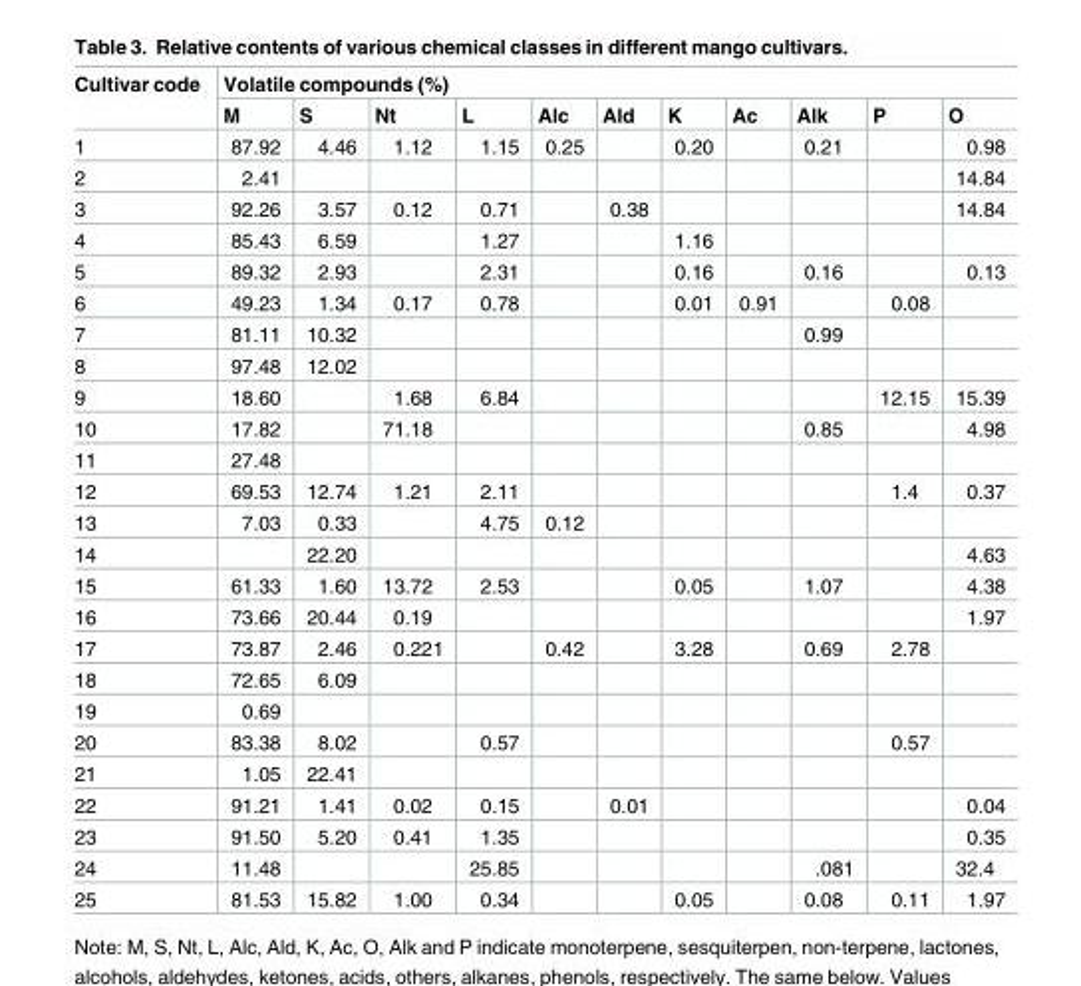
<table><thead><tr><td rowspan="2">Cultivar code</td><td colspan="11">Volatile compounds (%)</td></tr><tr><td>M</td><td>S</td><td>Nt</td><td>L</td><td>Alc</td><td>Ald</td><td>K</td><td>Ac</td><td>Alk</td><td>P</td><td>O</td></tr></thead><tbody><tr><td>1</td><td>87.92</td><td>4.46</td><td>1.12</td><td>1.15</td><td>0.25</td><td></td><td>0.20</td><td></td><td>0.21</td><td></td><td>0.98</td></tr><tr><td>2</td><td>2.41</td><td></td><td></td><td></td><td></td><td></td><td></td><td></td><td></td><td></td><td>14.84</td></tr><tr><td>3</td><td>92.26</td><td>3.57</td><td>0.12</td><td>0.71</td><td></td><td>0.38</td><td></td><td></td><td></td><td></td><td>14.84</td></tr><tr><td>4</td><td>85.43</td><td>6.59</td><td></td><td>1.27</td><td></td><td></td><td>1.16</td><td></td><td></td><td></td><td></td></tr><tr><td>5</td><td>89.32</td><td>2.93</td><td></td><td>2.31</td><td></td><td></td><td>0.16</td><td></td><td>0.16</td><td></td><td>0.13</td></tr><tr><td>6</td><td>49.23</td><td>1.34</td><td>0.17</td><td>0.78</td><td></td><td></td><td>0.01</td><td>0.91</td><td></td><td>0.08</td><td></td></tr><tr><td>7</td><td>81.11</td><td>10.32</td><td></td><td></td><td></td><td></td><td></td><td></td><td>0.99</td><td></td><td></td></tr><tr><td>8</td><td>97.48</td><td>12.02</td><td></td><td></td><td></td><td></td><td></td><td></td><td></td><td></td><td></td></tr><tr><td>9</td><td>18.60</td><td></td><td>1.68</td><td>6.84</td><td></td><td></td><td></td><td></td><td></td><td>12.15</td><td>15.39</td></tr><tr><td>10</td><td>17.82</td><td></td><td>71.18</td><td></td><td></td><td></td><td></td><td></td><td>0.85</td><td></td><td>4.98</td></tr><tr><td>11</td><td>27.48</td><td></td><td></td><td></td><td></td><td></td><td></td><td></td><td></td><td></td><td></td></tr><tr><td>12</td><td>69.53</td><td>12.74</td><td>1.21</td><td>2.11</td><td></td><td></td><td></td><td></td><td></td><td>1.4</td><td>0.37</td></tr><tr><td>13</td><td>7.03</td><td>0.33</td><td></td><td>4.75</td><td>0.12</td><td></td><td></td><td></td><td></td><td></td><td></td></tr><tr><td>14</td><td></td><td>22.20</td><td></td><td></td><td></td><td></td><td></td><td></td><td></td><td></td><td>4.63</td></tr><tr><td>15</td><td>61.33</td><td>1.60</td><td>13.72</td><td>2.53</td><td></td><td></td><td>0.05</td><td></td><td>1.07</td><td></td><td>4.38</td></tr><tr><td>16</td><td>73.66</td><td>20.44</td><td>0.19</td><td></td><td></td><td></td><td></td><td></td><td></td><td></td><td>1.97</td></tr><tr><td>17</td><td>73.87</td><td>2.46</td><td>0.221</td><td></td><td>0.42</td><td></td><td>3.28</td><td></td><td>0.69</td><td>2.78</td><td></td></tr><tr><td>18</td><td>72.65</td><td>6.09</td><td></td><td></td><td></td><td></td><td></td><td></td><td></td><td></td><td></td></tr><tr><td>19</td><td>0.69</td><td></td><td></td><td></td><td></td><td></td><td></td><td></td><td></td><td></td><td></td></tr><tr><td>20</td><td>83.38</td><td>8.02</td><td></td><td>0.57</td><td></td><td></td><td></td><td></td><td></td><td>0.57</td><td></td></tr><tr><td>21</td><td>1.05</td><td>22.41</td><td></td><td></td><td></td><td></td><td></td><td></td><td></td><td></td><td></td></tr><tr><td>22</td><td>91.21</td><td>1.41</td><td>0.02</td><td>0.15</td><td></td><td>0.01</td><td></td><td></td><td></td><td></td><td>0.04</td></tr><tr><td>23</td><td>91.50</td><td>5.20</td><td>0.41</td><td>1.35</td><td></td><td></td><td></td><td></td><td></td><td></td><td>0.35</td></tr><tr><td>24</td><td>11.48</td><td></td><td></td><td>25.85</td><td></td><td></td><td></td><td></td><td>.081</td><td></td><td>32.4</td></tr><tr><td>25</td><td>81.53</td><td>15.82</td><td>1.00</td><td>0.34</td><td></td><td></td><td>0.05</td><td></td><td>0.08</td><td>0.11</td><td>1.97</td></tr></tbody></table>